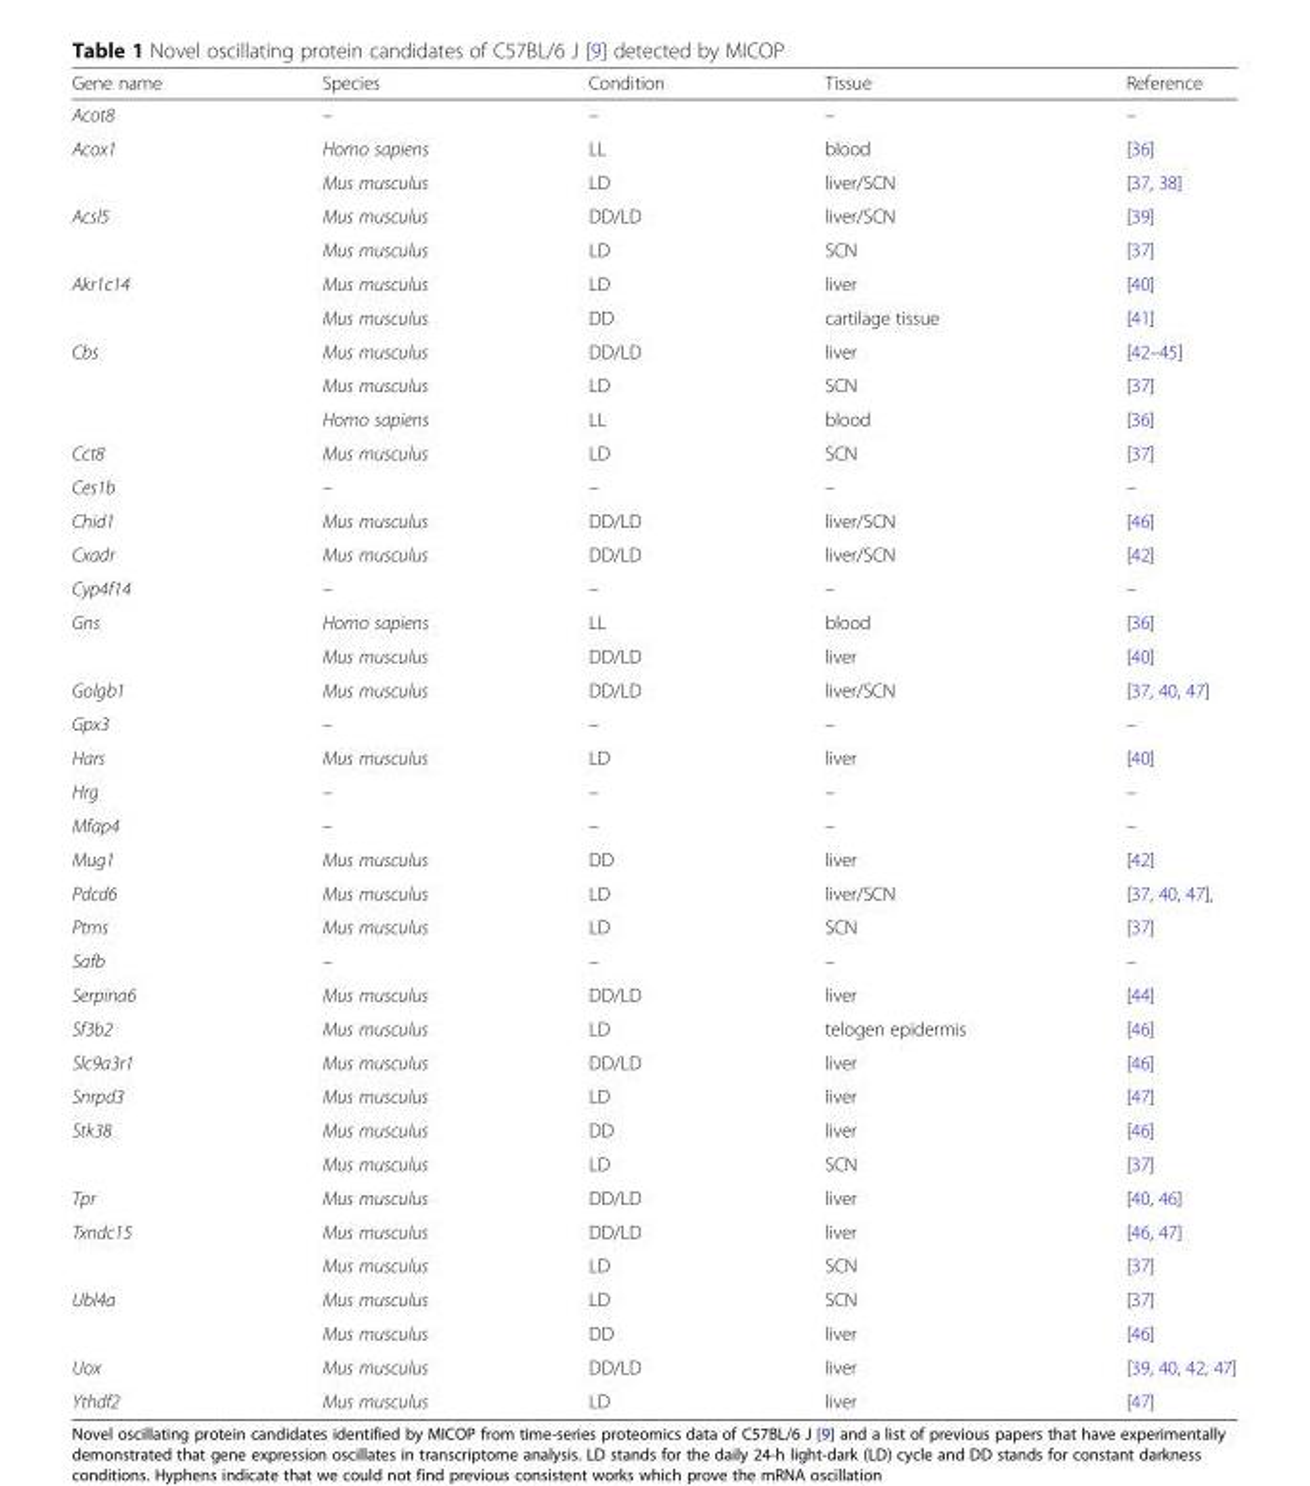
<table><thead><tr><td>Gene name</td><td>Species</td><td>Condition</td><td>Tissue</td><td>Reference</td></tr></thead><tbody><tr><td>Acot8</td><td>–</td><td>–</td><td>–</td><td>–</td></tr><tr><td rowspan="2">Acox1</td><td>Homo sapiens</td><td>LL</td><td>blood</td><td>[36]</td></tr><tr><td>Mus musculus</td><td>LD</td><td>liver/SCN</td><td>[37, 38]</td></tr><tr><td rowspan="2">Acsl5</td><td>Mus musculus</td><td>DD/LD</td><td>liver/SCN</td><td>[39]</td></tr><tr><td>Mus musculus</td><td>LD</td><td>SCN</td><td>[37]</td></tr><tr><td rowspan="2">Akr1c14</td><td>Mus musculus</td><td>LD</td><td>liver</td><td>[40]</td></tr><tr><td>Mus musculus</td><td>DD</td><td>cartilage tissue</td><td>[41]</td></tr><tr><td rowspan="3">Cbs</td><td>Mus musculus</td><td>DD/LD</td><td>liver</td><td>[42–45]</td></tr><tr><td>Mus musculus</td><td>LD</td><td>SCN</td><td>[37]</td></tr><tr><td>Homo sapiens</td><td>LL</td><td>blood</td><td>[36]</td></tr><tr><td>Cct8</td><td>Mus musculus</td><td>LD</td><td>SCN</td><td>[37]</td></tr><tr><td>Ces1b</td><td>–</td><td>–</td><td>–</td><td>–</td></tr><tr><td>Chid1</td><td>Mus musculus</td><td>DD/LD</td><td>liver/SCN</td><td>[46]</td></tr><tr><td>Cxadr</td><td>Mus musculus</td><td>DD/LD</td><td>liver/SCN</td><td>[42]</td></tr><tr><td>Cyp4f14</td><td>–</td><td>–</td><td>–</td><td>–</td></tr><tr><td rowspan="2">Gns</td><td>Homo sapiens</td><td>LL</td><td>blood</td><td>[36]</td></tr><tr><td>Mus musculus</td><td>DD/LD</td><td>liver</td><td>[40]</td></tr><tr><td>Golgb1</td><td>Mus musculus</td><td>DD/LD</td><td>liver/SCN</td><td>[37, 40, 47]</td></tr><tr><td>Gpx3</td><td>–</td><td>–</td><td>–</td><td>–</td></tr><tr><td>Hars</td><td>Mus musculus</td><td>LD</td><td>liver</td><td>[40]</td></tr><tr><td>Hrg</td><td>–</td><td>–</td><td>–</td><td>–</td></tr><tr><td>Mfap4</td><td>–</td><td>–</td><td>–</td><td>–</td></tr><tr><td>Mug1</td><td>Mus musculus</td><td>DD</td><td>liver</td><td>[42]</td></tr><tr><td>Pdcd6</td><td>Mus musculus</td><td>LD</td><td>liver/SCN</td><td>[37, 40, 47],</td></tr><tr><td>Ptms</td><td>Mus musculus</td><td>LD</td><td>SCN</td><td>[37]</td></tr><tr><td>Safb</td><td>–</td><td>–</td><td>–</td><td>–</td></tr><tr><td>Serpina6</td><td>Mus musculus</td><td>DD/LD</td><td>liver</td><td>[44]</td></tr><tr><td>Sf3b2</td><td>Mus musculus</td><td>LD</td><td>telogen epidermis</td><td>[46]</td></tr><tr><td>Slc9a3r1</td><td>Mus musculus</td><td>DD/LD</td><td>liver</td><td>[46]</td></tr><tr><td>Snrpd3</td><td>Mus musculus</td><td>LD</td><td>liver</td><td>[47]</td></tr><tr><td rowspan="2">Stk38</td><td>Mus musculus</td><td>DD</td><td>liver</td><td>[46]</td></tr><tr><td>Mus musculus</td><td>LD</td><td>SCN</td><td>[37]</td></tr><tr><td>Tpr</td><td>Mus musculus</td><td>DD/LD</td><td>liver</td><td>[40, 46]</td></tr><tr><td rowspan="2">Txndc15</td><td>Mus musculus</td><td>DD/LD</td><td>liver</td><td>[46, 47]</td></tr><tr><td>Mus musculus</td><td>LD</td><td>SCN</td><td>[37]</td></tr><tr><td rowspan="2">Ubl4a</td><td>Mus musculus</td><td>LD</td><td>SCN</td><td>[37]</td></tr><tr><td>Mus musculus</td><td>DD</td><td>liver</td><td>[46]</td></tr><tr><td>Uox</td><td>Mus musculus</td><td>DD/LD</td><td>liver</td><td>[39, 40, 42, 47]</td></tr><tr><td>Ythdf2</td><td>Mus musculus</td><td>LD</td><td>liver</td><td>[47]</td></tr></tbody></table>